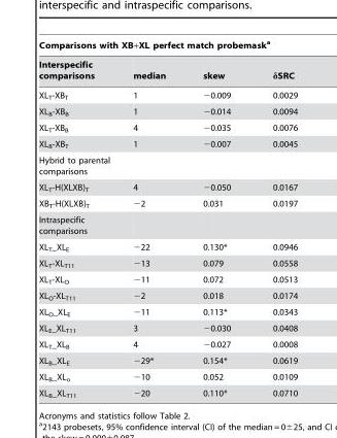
<table><thead><tr><td colspan="4">Comparisons with XB+XL perfect match probemask<sup>a</sup></td></tr><tr><td>Interspecific comparisons</td><td>median</td><td>skew</td><td>δSRC</td></tr></thead><tbody><tr><td>XL<sub>T</sub>-XB<sub>T</sub></td><td>1</td><td>−0.009</td><td>0.0029</td></tr><tr><td>XL<sub>B</sub>-XB<sub>B</sub></td><td>1</td><td>−0.014</td><td>0.0094</td></tr><tr><td>XL<sub>T</sub>-XB<sub>B</sub></td><td>4</td><td>−0.035</td><td>0.0076</td></tr><tr><td>XL<sub>B</sub>-XB<sub>T</sub></td><td>1</td><td>−0.007</td><td>0.0045</td></tr><tr><td colspan="4">Hybrid to parental comparisons</td></tr><tr><td>XL<sub>T</sub>-H(XLXB)<sub>T</sub></td><td>4</td><td>−0.050</td><td>0.0167</td></tr><tr><td>XB<sub>T</sub>-H(XLXB)<sub>T</sub></td><td>−2</td><td>0.031</td><td>0.0197</td></tr><tr><td colspan="4">Intraspecific comparisons</td></tr><tr><td>XLT_XLE</td><td>−22</td><td>0.130*</td><td>0.0946</td></tr><tr><td>XL<sub>T</sub>-XL<sub>T11</sub></td><td>−13</td><td>0.079</td><td>0.0558</td></tr><tr><td>XL<sub>T</sub>-XL<sub>O</sub></td><td>−11</td><td>0.072</td><td>0.0513</td></tr><tr><td>XL<sub>O</sub>-XL<sub>T11</sub></td><td>−2</td><td>0.018</td><td>0.0174</td></tr><tr><td>XLO_XLE</td><td>−11</td><td>0.113*</td><td>0.0343</td></tr><tr><td>XLE_XLT11</td><td>3</td><td>−0.030</td><td>0.0408</td></tr><tr><td>XLT_XLB</td><td>4</td><td>−0.027</td><td>0.0008</td></tr><tr><td>XLB_XLE</td><td>−29*</td><td>0.154*</td><td>0.0619</td></tr><tr><td>XLB_XLo</td><td>−10</td><td>0.052</td><td>0.0109</td></tr><tr><td>XLB_XLT11</td><td>−20</td><td>0.110*</td><td>0.0710</td></tr></tbody></table>